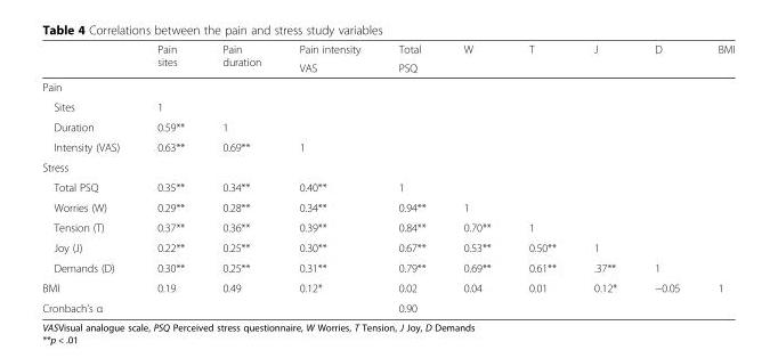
<table><thead><tr><td rowspan="2"></td><td rowspan="2">Pain sites</td><td rowspan="2">Pain duration</td><td rowspan="2">Pain intensity VAS</td><td rowspan="2">Total PSQ</td><td rowspan="2">W</td><td rowspan="2">T</td><td rowspan="2">J</td><td rowspan="2">D</td><td rowspan="2">BMI</td></tr><tr></tr></thead><tbody><tr><td colspan="10">Pain</td></tr><tr><td>Sites</td><td>1</td><td></td><td></td><td></td><td></td><td></td><td></td><td></td><td></td></tr><tr><td>Duration</td><td>0.59**</td><td>1</td><td></td><td></td><td></td><td></td><td></td><td></td><td></td></tr><tr><td>Intensity (VAS)</td><td>0.63**</td><td>0.69**</td><td>1</td><td></td><td></td><td></td><td></td><td></td><td></td></tr><tr><td colspan="10">Stress</td></tr><tr><td>Total PSQ</td><td>0.35**</td><td>0.34**</td><td>0.40**</td><td>1</td><td></td><td></td><td></td><td></td><td></td></tr><tr><td>Worries (W)</td><td>0.29**</td><td>0.28**</td><td>0.34**</td><td>0.94**</td><td>1</td><td></td><td></td><td></td><td></td></tr><tr><td>Tension (T)</td><td>0.37**</td><td>0.36**</td><td>0.39**</td><td>0.84**</td><td>0.70**</td><td>1</td><td></td><td></td><td></td></tr><tr><td>Joy (J)</td><td>0.22**</td><td>0.25**</td><td>0.30**</td><td>0.67**</td><td>0.53**</td><td>0.50**</td><td>1</td><td></td><td></td></tr><tr><td>Demands (D)</td><td>0.30**</td><td>0.25**</td><td>0.31**</td><td>0.79**</td><td>0.69**</td><td>0.61**</td><td>.37**</td><td>1</td><td></td></tr><tr><td>BMI</td><td>0.19</td><td>0.49</td><td>0.12*</td><td>0.02</td><td>0.04</td><td>0.01</td><td>0.12*</td><td>−0.05</td><td>1</td></tr><tr><td>Cronbach’s α</td><td></td><td></td><td></td><td>0.90</td><td></td><td></td><td></td><td></td><td></td></tr></tbody></table>